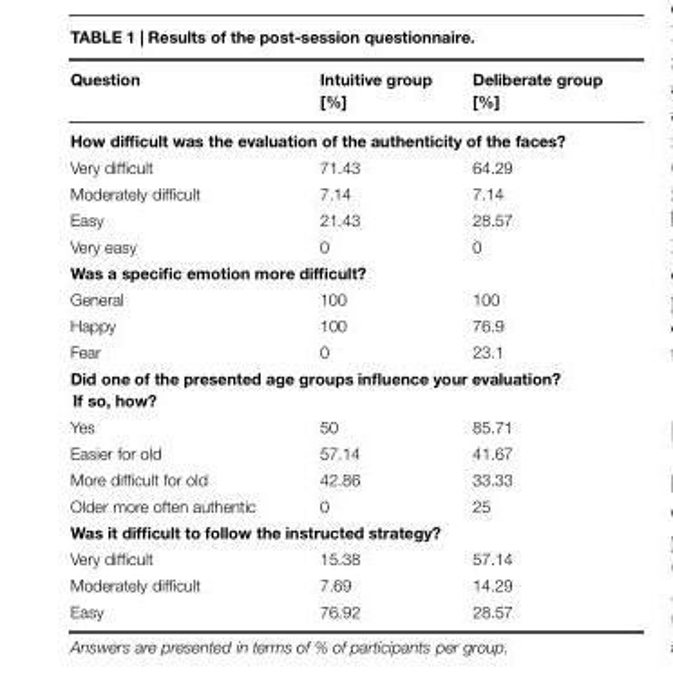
<table><thead><tr><td>Question</td><td>Intuitive group [%]</td><td>Deliberate group [%]</td></tr></thead><tbody><tr><td colspan="3">How difficult was the evaluation of the authenticity of the faces?</td></tr><tr><td>Very difficult</td><td>71.43</td><td>64.29</td></tr><tr><td>Moderately difficult</td><td>7.14</td><td>7.14</td></tr><tr><td>Easy</td><td>21.43</td><td>28.57</td></tr><tr><td>Very easy</td><td>0</td><td>0</td></tr><tr><td colspan="3">Was a specific emotion more difficult?</td></tr><tr><td>General</td><td>100</td><td>100</td></tr><tr><td>Happy</td><td>100</td><td>76.9</td></tr><tr><td>Fear</td><td>0</td><td>23.1</td></tr><tr><td colspan="3">Did one of the presented age groups influence your evaluation? If so, how?</td></tr><tr><td>Yes</td><td>50</td><td>85.71</td></tr><tr><td>Easier for old</td><td>57.14</td><td>41.67</td></tr><tr><td>More difficult for old</td><td>42.86</td><td>33.33</td></tr><tr><td>Older more often authentic</td><td>0</td><td>25</td></tr><tr><td colspan="3">Was it difficult to follow the instructed strategy?</td></tr><tr><td>Very difficult</td><td>15.38</td><td>57.14</td></tr><tr><td>Moderately difficult</td><td>7.69</td><td>14.29</td></tr><tr><td>Easy</td><td>76.92</td><td>28.57</td></tr></tbody></table>